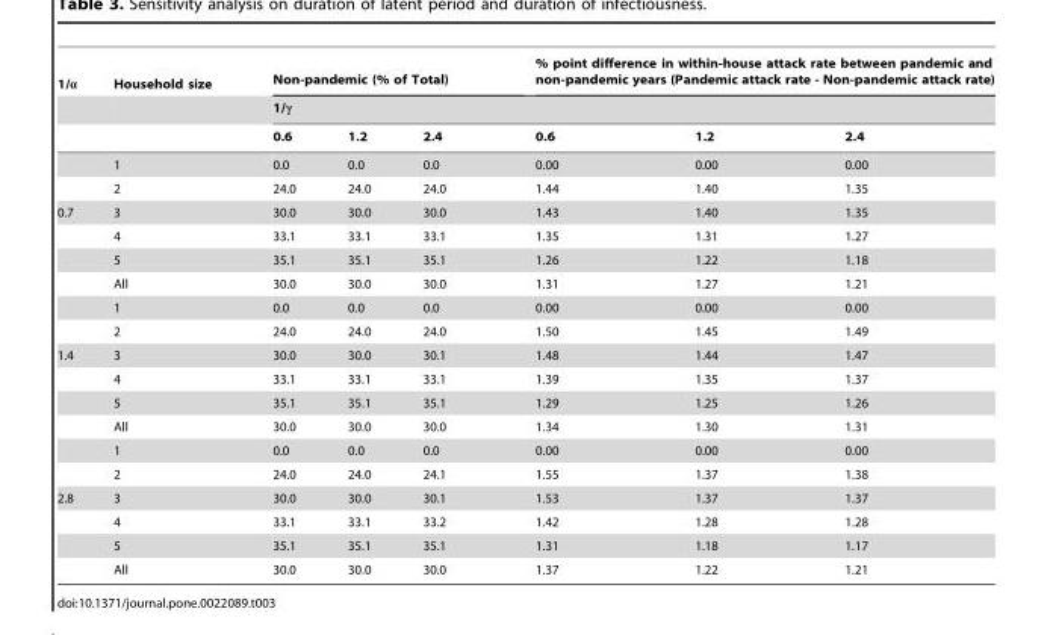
<table><thead><tr><td rowspan="3">1/α</td><td rowspan="3">Household size</td><td colspan="3">Non-pandemic (% of Total)</td><td colspan="3">% point difference in within-house attack rate between pandemic and non-pandemic years (Pandemic attack rate - Non-pandemic attack rate)</td></tr><tr><td colspan="6">1/γ</td></tr><tr><td>0.6</td><td>1.2</td><td>2.4</td><td>0.6</td><td>1.2</td><td>2.4</td></tr></thead><tbody><tr><td></td><td>1</td><td>0.0</td><td>0.0</td><td>0.0</td><td>0.00</td><td>0.00</td><td>0.00</td></tr><tr><td></td><td>2</td><td>24.0</td><td>24.0</td><td>24.0</td><td>1.44</td><td>1.40</td><td>1.35</td></tr><tr><td rowspan="6">0.7</td><td>3</td><td>30.0</td><td>30.0</td><td>30.0</td><td>1.43</td><td>1.40</td><td>1.35</td></tr><tr><td>4</td><td>33.1</td><td>33.1</td><td>33.1</td><td>1.35</td><td>1.31</td><td>1.27</td></tr><tr><td>5</td><td>35.1</td><td>35.1</td><td>35.1</td><td>1.26</td><td>1.22</td><td>1.18</td></tr><tr><td>All</td><td>30.0</td><td>30.0</td><td>30.0</td><td>1.31</td><td>1.27</td><td>1.21</td></tr><tr><td>1</td><td>0.0</td><td>0.0</td><td>0.0</td><td>0.00</td><td>0.00</td><td>0.00</td></tr><tr><td>2</td><td>24.0</td><td>24.0</td><td>24.0</td><td>1.50</td><td>1.45</td><td>1.49</td></tr><tr><td rowspan="6">1.4</td><td>3</td><td>30.0</td><td>30.0</td><td>30.1</td><td>1.48</td><td>1.44</td><td>1.47</td></tr><tr><td>4</td><td>33.1</td><td>33.1</td><td>33.1</td><td>1.39</td><td>1.35</td><td>1.37</td></tr><tr><td>5</td><td>35.1</td><td>35.1</td><td>35.1</td><td>1.29</td><td>1.25</td><td>1.26</td></tr><tr><td>All</td><td>30.0</td><td>30.0</td><td>30.0</td><td>1.34</td><td>1.30</td><td>1.31</td></tr><tr><td>1</td><td>0.0</td><td>0.0</td><td>0.0</td><td>0.00</td><td>0.00</td><td>0.00</td></tr><tr><td>2</td><td>24.0</td><td>24.0</td><td>24.1</td><td>1.55</td><td>1.37</td><td>1.38</td></tr><tr><td rowspan="4">2.8</td><td>3</td><td>30.0</td><td>30.0</td><td>30.1</td><td>1.53</td><td>1.37</td><td>1.37</td></tr><tr><td>4</td><td>33.1</td><td>33.1</td><td>33.2</td><td>1.42</td><td>1.28</td><td>1.28</td></tr><tr><td>5</td><td>35.1</td><td>35.1</td><td>35.1</td><td>1.31</td><td>1.18</td><td>1.17</td></tr><tr><td>All</td><td>30.0</td><td>30.0</td><td>30.0</td><td>1.37</td><td>1.22</td><td>1.21</td></tr></tbody></table>